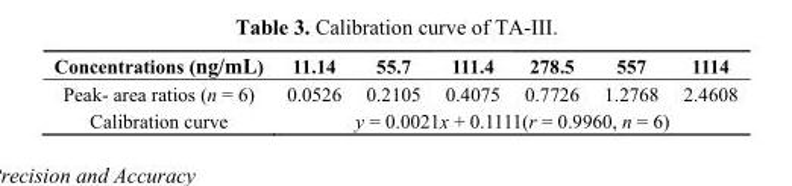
<table><thead><tr><td>Concentrations (ng/mL)</td><td>11.14</td><td>55.7</td><td>111.4</td><td>278.5</td><td>557</td><td>1114</td></tr></thead><tbody><tr><td>Peak- area ratios (n = 6)</td><td>0.0526</td><td>0.2105</td><td>0.4075</td><td>0.7726</td><td>1.2768</td><td>2.4608</td></tr><tr><td>Calibration curve</td><td colspan="6">y = 0.0021x + 0.1111(r = 0.9960, n = 6)</td></tr></tbody></table>